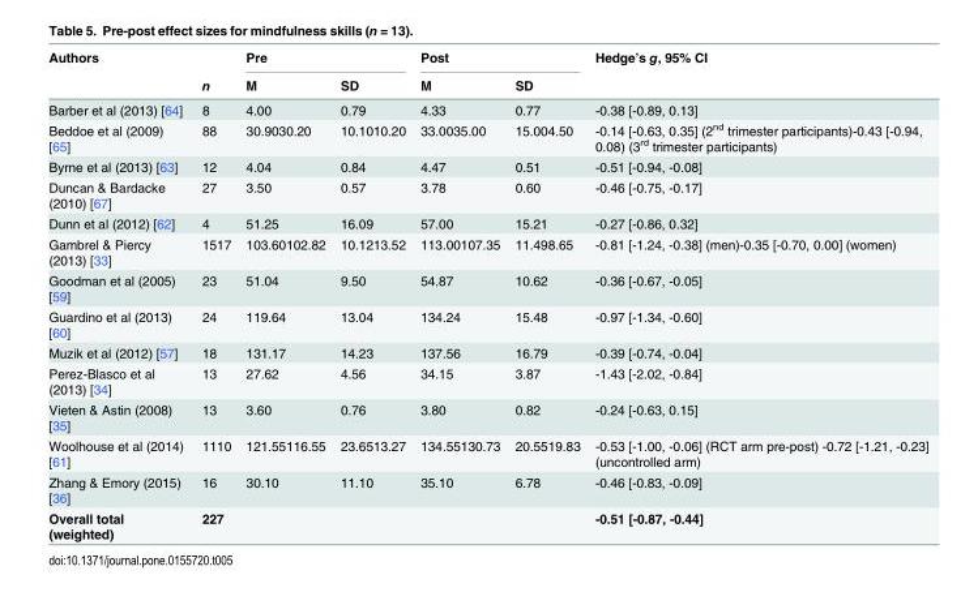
<table><thead><tr><td rowspan="2">Authors</td><td rowspan="2">n</td><td colspan="2">Pre</td><td colspan="2">Post</td><td rowspan="2">Hedge’s g, 95% CI</td></tr><tr><td>M</td><td>SD</td><td>M</td><td>SD</td></tr></thead><tbody><tr><td>Barber et al (2013) [64]</td><td>8</td><td>4.00</td><td>0.79</td><td>4.33</td><td>0.77</td><td>-0.38 [-0.89, 0.13]</td></tr><tr><td>Beddoe et al (2009) [65]</td><td>88</td><td>30.9030.20</td><td>10.1010.20</td><td>33.0035.00</td><td>15.004.50</td><td>-0.14 [-0.63, 0.35] (2<sup>nd</sup> trimester participants)-0.43 [-0.94, 0.08) (3<sup>rd</sup> trimester participants)</td></tr><tr><td>Byrne et al (2013) [63]</td><td>12</td><td>4.04</td><td>0.84</td><td>4.47</td><td>0.51</td><td>-0.51 [-0.94, -0.08]</td></tr><tr><td>Duncan &amp; Bardacke (2010) [67]</td><td>27</td><td>3.50</td><td>0.57</td><td>3.78</td><td>0.60</td><td>-0.46 [-0.75, -0.17]</td></tr><tr><td>Dunn et al (2012) [62]</td><td>4</td><td>51.25</td><td>16.09</td><td>57.00</td><td>15.21</td><td>-0.27 [-0.86, 0.32]</td></tr><tr><td>Gambrel &amp; Piercy (2013) [33]</td><td>1517</td><td>103.60102.82</td><td>10.1213.52</td><td>113.00107.35</td><td>11.498.65</td><td>-0.81 [-1.24, -0.38] (men)-0.35 [-0.70, 0.00] (women)</td></tr><tr><td>Goodman et al (2005) [59]</td><td>23</td><td>51.04</td><td>9.50</td><td>54.87</td><td>10.62</td><td>-0.36 [-0.67, -0.05]</td></tr><tr><td>Guardino et al (2013) [60]</td><td>24</td><td>119.64</td><td>13.04</td><td>134.24</td><td>15.48</td><td>-0.97 [-1.34, -0.60]</td></tr><tr><td>Muzik et al (2012) [57]</td><td>18</td><td>131.17</td><td>14.23</td><td>137.56</td><td>16.79</td><td>-0.39 [-0.74, -0.04]</td></tr><tr><td>Perez-Blasco et al (2013) [34]</td><td>13</td><td>27.62</td><td>4.56</td><td>34.15</td><td>3.87</td><td>-1.43 [-2.02, -0.84]</td></tr><tr><td>Vieten &amp; Astin (2008) [35]</td><td>13</td><td>3.60</td><td>0.76</td><td>3.80</td><td>0.82</td><td>-0.24 [-0.63, 0.15]</td></tr><tr><td>Woolhouse et al (2014) [61]</td><td>1110</td><td>121.55116.55</td><td>23.6513.27</td><td>134.55130.73</td><td>20.5519.83</td><td>-0.53 [-1.00, -0.06] (RCT arm pre-post) -0.72 [-1.21, -0.23] (uncontrolled arm)</td></tr><tr><td>Zhang &amp; Emory (2015) [36]</td><td>16</td><td>30.10</td><td>11.10</td><td>35.10</td><td>6.78</td><td>-0.46 [-0.83, -0.09]</td></tr><tr><td>Overall total (weighted)</td><td>227</td><td></td><td></td><td></td><td></td><td>-0.51 [-0.87, -0.44]</td></tr></tbody></table>